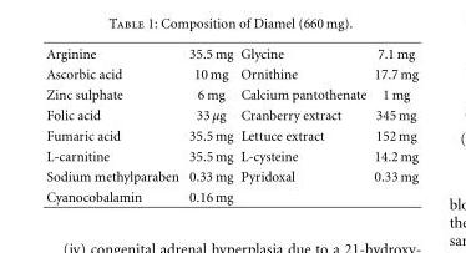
<table><tbody><tr><td>Arginine</td><td>35.5 mg</td><td>Glycine</td><td>7.1 mg</td></tr><tr><td>Ascorbic acid</td><td>10 mg</td><td>Ornithine</td><td>17.7 mg</td></tr><tr><td>Zinc sulphate</td><td>6 mg</td><td>Calcium pantothenate</td><td>1 mg</td></tr><tr><td>Folic acid</td><td>33 μg</td><td>Cranberry extract</td><td>345 mg</td></tr><tr><td>Fumaric acid</td><td>35.5 mg</td><td>Lettuce extract</td><td>152 mg</td></tr><tr><td>L-carnitine</td><td>35.5 mg</td><td>L-cysteine</td><td>14.2 mg</td></tr><tr><td>Sodium methylparaben</td><td>0.33 mg</td><td>Pyridoxal</td><td>0.33 mg</td></tr><tr><td>Cyanocobalamin</td><td>0.16 mg</td><td></td><td></td></tr></tbody></table>